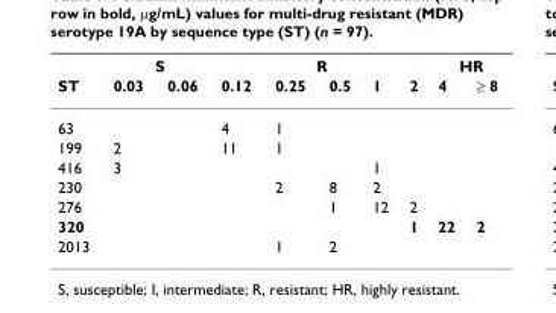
<table><thead><tr><td rowspan="2">ST</td><td colspan="2">S</td><td colspan="5">R</td><td colspan="2">HR</td></tr><tr><td>0.03</td><td>0.06</td><td>0.12</td><td>0.25</td><td>0.5</td><td>1</td><td>2</td><td>4</td><td>≥ 8</td></tr></thead><tbody><tr><td>63</td><td></td><td></td><td>4</td><td>1</td><td></td><td></td><td></td><td></td><td></td></tr><tr><td>199</td><td>2</td><td></td><td>11</td><td>1</td><td></td><td></td><td></td><td></td><td></td></tr><tr><td>416</td><td>3</td><td></td><td></td><td></td><td></td><td>1</td><td></td><td></td><td></td></tr><tr><td>230</td><td></td><td></td><td></td><td>2</td><td>8</td><td>2</td><td></td><td></td><td></td></tr><tr><td>276</td><td></td><td></td><td></td><td></td><td>1</td><td>12</td><td>2</td><td></td><td></td></tr><tr><td>320</td><td></td><td></td><td></td><td></td><td></td><td></td><td>1</td><td>22</td><td>2</td></tr><tr><td>2013</td><td></td><td></td><td></td><td>1</td><td>2</td><td></td><td></td><td></td><td></td></tr></tbody></table>